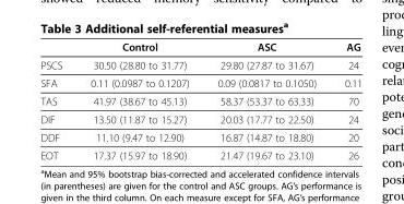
<table><thead><tr><td></td><td>Control</td><td>ASC</td><td>AG</td></tr></thead><tbody><tr><td>PSCS</td><td>30.50 (28.80 to 31.77)</td><td>29.80 (27.87 to 31.67)</td><td>24</td></tr><tr><td>SFA</td><td>0.11 (0.0987 to 0.1207)</td><td>0.09 (0.0817 to 0.1050)</td><td>0.11</td></tr><tr><td>TAS</td><td>41.97 (38.67 to 45.13)</td><td>58.37 (53.37 to 63.33)</td><td>70</td></tr><tr><td>DIF</td><td>13.50 (11.87 to 15.27)</td><td>20.03 (17.77 to 22.50)</td><td>24</td></tr><tr><td>DDF</td><td>11.10 (9.47 to 12.90)</td><td>16.87 (14.87 to 18.80)</td><td>20</td></tr><tr><td>EOT</td><td>17.37 (15.97 to 18.90)</td><td>21.47 (19.67 to 23.10)</td><td>26</td></tr></tbody></table>